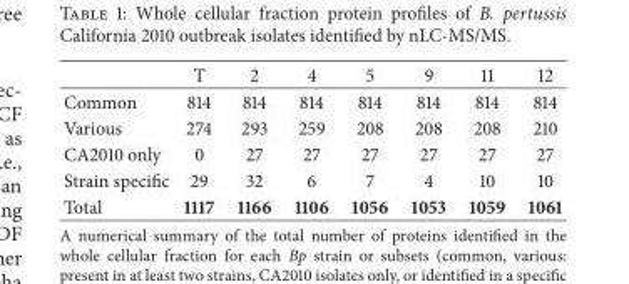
<table><thead><tr><td></td><td>T</td><td>2</td><td>4</td><td>5</td><td>9</td><td>11</td><td>12</td></tr></thead><tbody><tr><td>Common</td><td>814</td><td>814</td><td>814</td><td>814</td><td>814</td><td>814</td><td>814</td></tr><tr><td>Various</td><td>274</td><td>293</td><td>259</td><td>208</td><td>208</td><td>208</td><td>210</td></tr><tr><td>CA2010 only</td><td>0</td><td>27</td><td>27</td><td>27</td><td>27</td><td>27</td><td>27</td></tr><tr><td>Strain specific</td><td>29</td><td>32</td><td>6</td><td>7</td><td>4</td><td>10</td><td>10</td></tr><tr><td>Total</td><td>1117</td><td>1166</td><td>1106</td><td>1056</td><td>1053</td><td>1059</td><td>1061</td></tr></tbody></table>